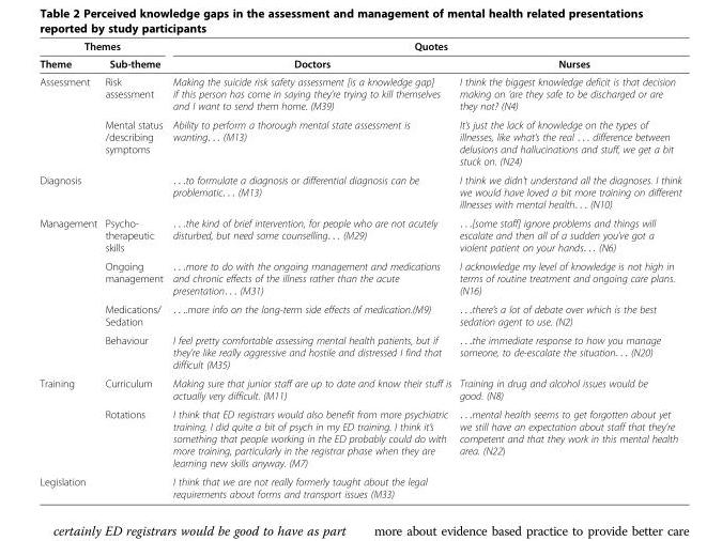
<table><thead><tr><td colspan="2">Themes</td><td colspan="2">Quotes</td></tr><tr><td>Theme</td><td>Sub-theme</td><td>Doctors</td><td>Nurses</td></tr></thead><tbody><tr><td rowspan="2">Assessment</td><td>Risk assessment</td><td>Making the suicide risk safety assessment [is a knowledge gap] if this person has come in saying they’re trying to kill themselves and I want to send them home. (M39)</td><td>I think the biggest knowledge deficit is that decision making on ‘are they safe to be discharged or are they not? (N4)</td></tr><tr><td>Mental status /describing symptoms</td><td>Ability to perform a thorough mental state assessment is wanting. . . (M13)</td><td>It’s just the lack of knowledge on the types of illnesses, like what’s the real . . . difference between delusions and hallucinations and stuff, we get a bit stuck on. (N24)</td></tr><tr><td>Diagnosis</td><td></td><td>. . .to formulate a diagnosis or differential diagnosis can be problematic. . . (M13)</td><td>I think we didn&#x27;t understand all the diagnoses. I think we would have loved a bit more training on different illnesses with mental health. . . (N10)</td></tr><tr><td rowspan="4">Management</td><td>Psycho- therapeutic skills</td><td>. . .the kind of brief intervention, for people who are not acutely disturbed, but need some counselling. . . (M29)</td><td>. . .[some staff] ignore problems and things will escalate and then all of a sudden you’ve got a violent patient on your hands. . . (N6)</td></tr><tr><td>Ongoing management</td><td>. . .more to do with the ongoing management and medications and chronic effects of the illness rather than the acute presentation. . . (M31)</td><td>I acknowledge my level of knowledge is not high in terms of routine treatment and ongoing care plans. (N16)</td></tr><tr><td>Medications/ Sedation</td><td>. . ..more info on the long-term side effects of medication.(M9)</td><td>. . .there’s a lot of debate over which is the best sedation agent to use. (N2)</td></tr><tr><td>Behaviour</td><td>I feel pretty comfortable assessing mental health patients, but if they’re like really aggressive and hostile and distressed I find that difficult (M35)</td><td>. . .the immediate response to how you manage someone, to de-escalate the situation. . . (N20)</td></tr><tr><td rowspan="2">Training</td><td>Curriculum</td><td>Making sure that junior staff are up to date and know their stuff is actually very difficult. (M11)</td><td>Training in drug and alcohol issues would be good. (N8)</td></tr><tr><td>Rotations</td><td>I think that ED registrars would also benefit from more psychiatric training. I did quite a bit of psych in my ED training. I think it’s something that people working in the ED probably could do with more training, particularly in the registrar phase when they are learning new skills anyway. (M7)</td><td>. . .mental health seems to get forgotten about yet we still have an expectation about staff that they’re competent and that they work in this mental health area. (N22)</td></tr><tr><td>Legislation</td><td></td><td>I think that we are not really formerly taught about the legal requirements about forms and transport issues (M33)</td><td></td></tr></tbody></table>